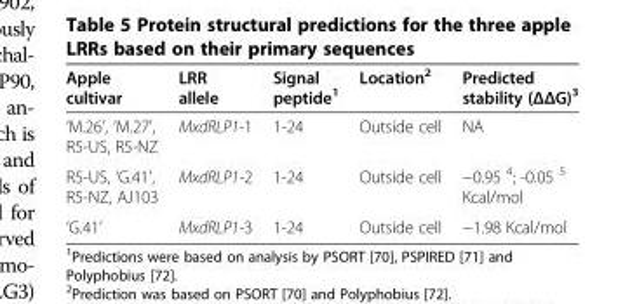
<table><thead><tr><td>Apple cultivar</td><td>LRR allele</td><td>Signal peptide<sup>1</sup></td><td>Location<sup>2</sup></td><td>Predicted stability (ΔΔG)<sup>3</sup></td></tr></thead><tbody><tr><td>‘M.26’, ‘M.27’, R5-US, R5-NZ</td><td>MxdRLP1-1</td><td>1-24</td><td>Outside cell</td><td>NA</td></tr><tr><td>R5-US, ‘G.41’, R5-NZ, AJ103</td><td>MxdRLP1-2</td><td>1-24</td><td>Outside cell</td><td>−0.95 <sup>4</sup>; -0.05 <sup>5</sup> Kcal/mol</td></tr><tr><td>‘G.41’</td><td>MxdRLP1-3</td><td>1-24</td><td>Outside cell</td><td>−1.98 Kcal/mol</td></tr></tbody></table>